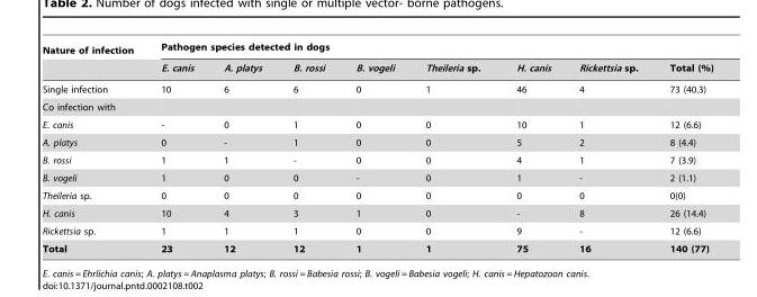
<table><thead><tr><td rowspan="2">Nature of infection</td><td colspan="8">Pathogen species detected in dogs</td></tr><tr><td>E. canis</td><td>A. platys</td><td>B. rossi</td><td>B. vogeli</td><td>Theileria sp.</td><td>H. canis</td><td>Rickettsia sp.</td><td>Total (%)</td></tr></thead><tbody><tr><td>Single infection</td><td>10</td><td>6</td><td>6</td><td>0</td><td>1</td><td>46</td><td>4</td><td>73 (40.3)</td></tr><tr><td colspan="9">Co infection with</td></tr><tr><td>E. canis</td><td>-</td><td>0</td><td>1</td><td>0</td><td>0</td><td>10</td><td>1</td><td>12 (6.6)</td></tr><tr><td>A. platys</td><td>0</td><td>-</td><td>1</td><td>0</td><td>0</td><td>5</td><td>2</td><td>8 (4.4)</td></tr><tr><td>B. rossi</td><td>1</td><td>1</td><td>-</td><td>0</td><td>0</td><td>4</td><td>1</td><td>7 (3.9)</td></tr><tr><td>B. vogeli</td><td>1</td><td>0</td><td>0</td><td>-</td><td>0</td><td>1</td><td>-</td><td>2 (1.1)</td></tr><tr><td>Theileria sp.</td><td>0</td><td>0</td><td>0</td><td>0</td><td>0</td><td>0</td><td>0</td><td>0(0)</td></tr><tr><td>H. canis</td><td>10</td><td>4</td><td>3</td><td>1</td><td>0</td><td>-</td><td>8</td><td>26 (14.4)</td></tr><tr><td>Rickettsia sp.</td><td>1</td><td>1</td><td>1</td><td>0</td><td>0</td><td>9</td><td>-</td><td>12 (6.6)</td></tr><tr><td>Total</td><td>23</td><td>12</td><td>12</td><td>1</td><td>1</td><td>75</td><td>16</td><td>140 (77)</td></tr></tbody></table>